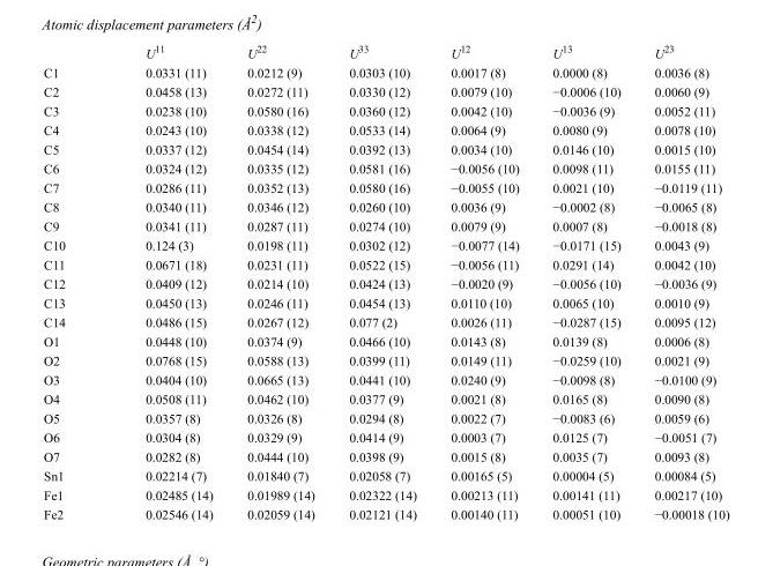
<table><thead><tr><td></td><td>U<sup>11</sup></td><td>U<sup>22</sup></td><td>U<sup>33</sup></td><td>U<sup>12</sup></td><td>U<sup>13</sup></td><td>U<sup>23</sup></td></tr></thead><tbody><tr><td>C1</td><td>0.0331 (11)</td><td>0.0212 (9)</td><td>0.0303 (10)</td><td>0.0017 (8)</td><td>0.0000 (8)</td><td>0.0036 (8)</td></tr><tr><td>C2</td><td>0.0458 (13)</td><td>0.0272 (11)</td><td>0.0330 (12)</td><td>0.0079 (10)</td><td>−0.0006 (10)</td><td>0.0060 (9)</td></tr><tr><td>C3</td><td>0.0238 (10)</td><td>0.0580 (16)</td><td>0.0360 (12)</td><td>0.0042 (10)</td><td>−0.0036 (9)</td><td>0.0052 (11)</td></tr><tr><td>C4</td><td>0.0243 (10)</td><td>0.0338 (12)</td><td>0.0533 (14)</td><td>0.0064 (9)</td><td>0.0080 (9)</td><td>0.0078 (10)</td></tr><tr><td>C5</td><td>0.0337 (12)</td><td>0.0454 (14)</td><td>0.0392 (13)</td><td>0.0034 (10)</td><td>0.0146 (10)</td><td>0.0015 (10)</td></tr><tr><td>C6</td><td>0.0324 (12)</td><td>0.0335 (12)</td><td>0.0581 (16)</td><td>−0.0056 (10)</td><td>0.0098 (11)</td><td>0.0155 (11)</td></tr><tr><td>C7</td><td>0.0286 (11)</td><td>0.0352 (13)</td><td>0.0580 (16)</td><td>−0.0055 (10)</td><td>0.0021 (10)</td><td>−0.0119 (11)</td></tr><tr><td>C8</td><td>0.0340 (11)</td><td>0.0346 (12)</td><td>0.0260 (10)</td><td>0.0036 (9)</td><td>−0.0002 (8)</td><td>−0.0065 (8)</td></tr><tr><td>C9</td><td>0.0341 (11)</td><td>0.0287 (11)</td><td>0.0274 (10)</td><td>0.0079 (9)</td><td>0.0007 (8)</td><td>−0.0018 (8)</td></tr><tr><td>C10</td><td>0.124 (3)</td><td>0.0198 (11)</td><td>0.0302 (12)</td><td>−0.0077 (14)</td><td>−0.0171 (15)</td><td>0.0043 (9)</td></tr><tr><td>C11</td><td>0.0671 (18)</td><td>0.0231 (11)</td><td>0.0522 (15)</td><td>−0.0056 (11)</td><td>0.0291 (14)</td><td>0.0042 (10)</td></tr><tr><td>C12</td><td>0.0409 (12)</td><td>0.0214 (10)</td><td>0.0424 (13)</td><td>−0.0020 (9)</td><td>−0.0056 (10)</td><td>−0.0036 (9)</td></tr><tr><td>C13</td><td>0.0450 (13)</td><td>0.0246 (11)</td><td>0.0454 (13)</td><td>0.0110 (10)</td><td>0.0065 (10)</td><td>0.0010 (9)</td></tr><tr><td>C14</td><td>0.0486 (15)</td><td>0.0267 (12)</td><td>0.077 (2)</td><td>0.0026 (11)</td><td>−0.0287 (15)</td><td>0.0095 (12)</td></tr><tr><td>O1</td><td>0.0448 (10)</td><td>0.0374 (9)</td><td>0.0466 (10)</td><td>0.0143 (8)</td><td>0.0139 (8)</td><td>0.0006 (8)</td></tr><tr><td>O2</td><td>0.0768 (15)</td><td>0.0588 (13)</td><td>0.0399 (11)</td><td>0.0149 (11)</td><td>−0.0259 (10)</td><td>0.0021 (9)</td></tr><tr><td>O3</td><td>0.0404 (10)</td><td>0.0665 (13)</td><td>0.0441 (10)</td><td>0.0240 (9)</td><td>−0.0098 (8)</td><td>−0.0100 (9)</td></tr><tr><td>O4</td><td>0.0508 (11)</td><td>0.0462 (10)</td><td>0.0377 (9)</td><td>0.0021 (8)</td><td>0.0165 (8)</td><td>0.0090 (8)</td></tr><tr><td>O5</td><td>0.0357 (8)</td><td>0.0326 (8)</td><td>0.0294 (8)</td><td>0.0022 (7)</td><td>−0.0083 (6)</td><td>0.0059 (6)</td></tr><tr><td>O6</td><td>0.0304 (8)</td><td>0.0329 (9)</td><td>0.0414 (9)</td><td>0.0003 (7)</td><td>0.0125 (7)</td><td>−0.0051 (7)</td></tr><tr><td>O7</td><td>0.0282 (8)</td><td>0.0444 (10)</td><td>0.0398 (9)</td><td>0.0015 (8)</td><td>0.0035 (7)</td><td>0.0093 (8)</td></tr><tr><td>Sn1</td><td>0.02214 (7)</td><td>0.01840 (7)</td><td>0.02058 (7)</td><td>0.00165 (5)</td><td>0.00004 (5)</td><td>0.00084 (5)</td></tr><tr><td>Fe1</td><td>0.02485 (14)</td><td>0.01989 (14)</td><td>0.02322 (14)</td><td>0.00213 (11)</td><td>0.00141 (11)</td><td>0.00217 (10)</td></tr><tr><td>Fe2</td><td>0.02546 (14)</td><td>0.02059 (14)</td><td>0.02121 (14)</td><td>0.00140 (11)</td><td>0.00051 (10)</td><td>−0.00018 (10)</td></tr></tbody></table>